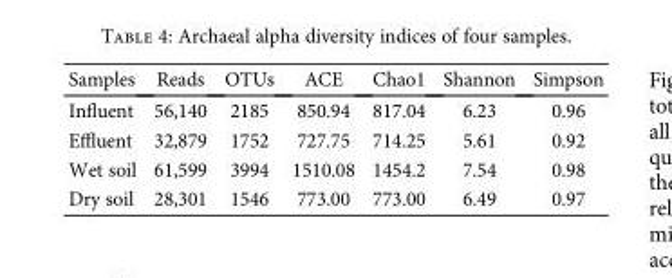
<table><thead><tr><td>Samples</td><td>Reads</td><td>OTUs</td><td>ACE</td><td>Chao1</td><td>Shannon</td><td>Simpson</td></tr></thead><tbody><tr><td>Influent</td><td>56,140</td><td>2185</td><td>850.94</td><td>817.04</td><td>6.23</td><td>0.96</td></tr><tr><td>Effluent</td><td>32,879</td><td>1752</td><td>727.75</td><td>714.25</td><td>5.61</td><td>0.92</td></tr><tr><td>Wet soil</td><td>61,599</td><td>3994</td><td>1510.08</td><td>1454.2</td><td>7.54</td><td>0.98</td></tr><tr><td>Dry soil</td><td>28,301</td><td>1546</td><td>773.00</td><td>773.00</td><td>6.49</td><td>0.97</td></tr></tbody></table>